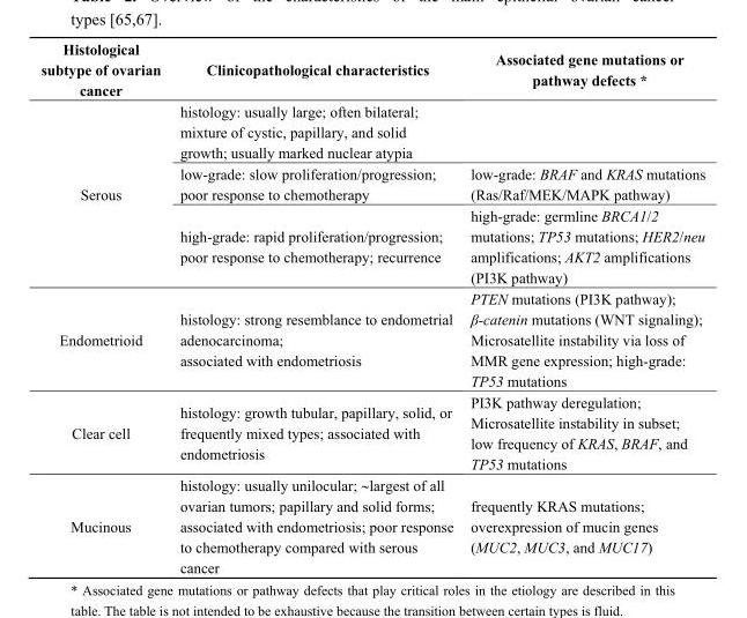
<table><thead><tr><td>Histological subtype of ovarian cancer</td><td>Clinicopathological characteristics</td><td>Associated gene mutations or pathway defects *</td></tr></thead><tbody><tr><td rowspan="3">Serous</td><td>histology: usually large; often bilateral; mixture of cystic, papillary, and solid growth; usually marked nuclear atypia</td><td></td></tr><tr><td>low-grade: slow proliferation/progression; poor response to chemotherapy</td><td>low-grade: BRAF and KRAS mutations (Ras/Raf/MEK/MAPK pathway)</td></tr><tr><td>high-grade: rapid proliferation/progression; poor response to chemotherapy; recurrence</td><td>high-grade: germline BRCA1/2 mutations; TP53 mutations; HER2/neu amplifications; AKT2 amplifications (PI3K pathway)</td></tr><tr><td>Endometrioid</td><td>histology: strong resemblance to endometrial adenocarcinoma; associated with endometriosis</td><td>PTEN mutations (PI3K pathway); β-catenin mutations (WNT signaling); Microsatellite instability via loss of MMR gene expression; high-grade: TP53 mutations</td></tr><tr><td>Clear cell</td><td>histology: growth tubular, papillary, solid, or frequently mixed types; associated with endometriosis</td><td>PI3K pathway deregulation; Microsatellite instability in subset; low frequency of KRAS, BRAF, and TP53 mutations</td></tr><tr><td>Mucinous</td><td>histology: usually unilocular; ~largest of all ovarian tumors; papillary and solid forms; associated with endometriosis; poor response to chemotherapy compared with serous cancer</td><td>frequently KRAS mutations; overexpression of mucin genes (MUC2, MUC3, and MUC17)</td></tr></tbody></table>